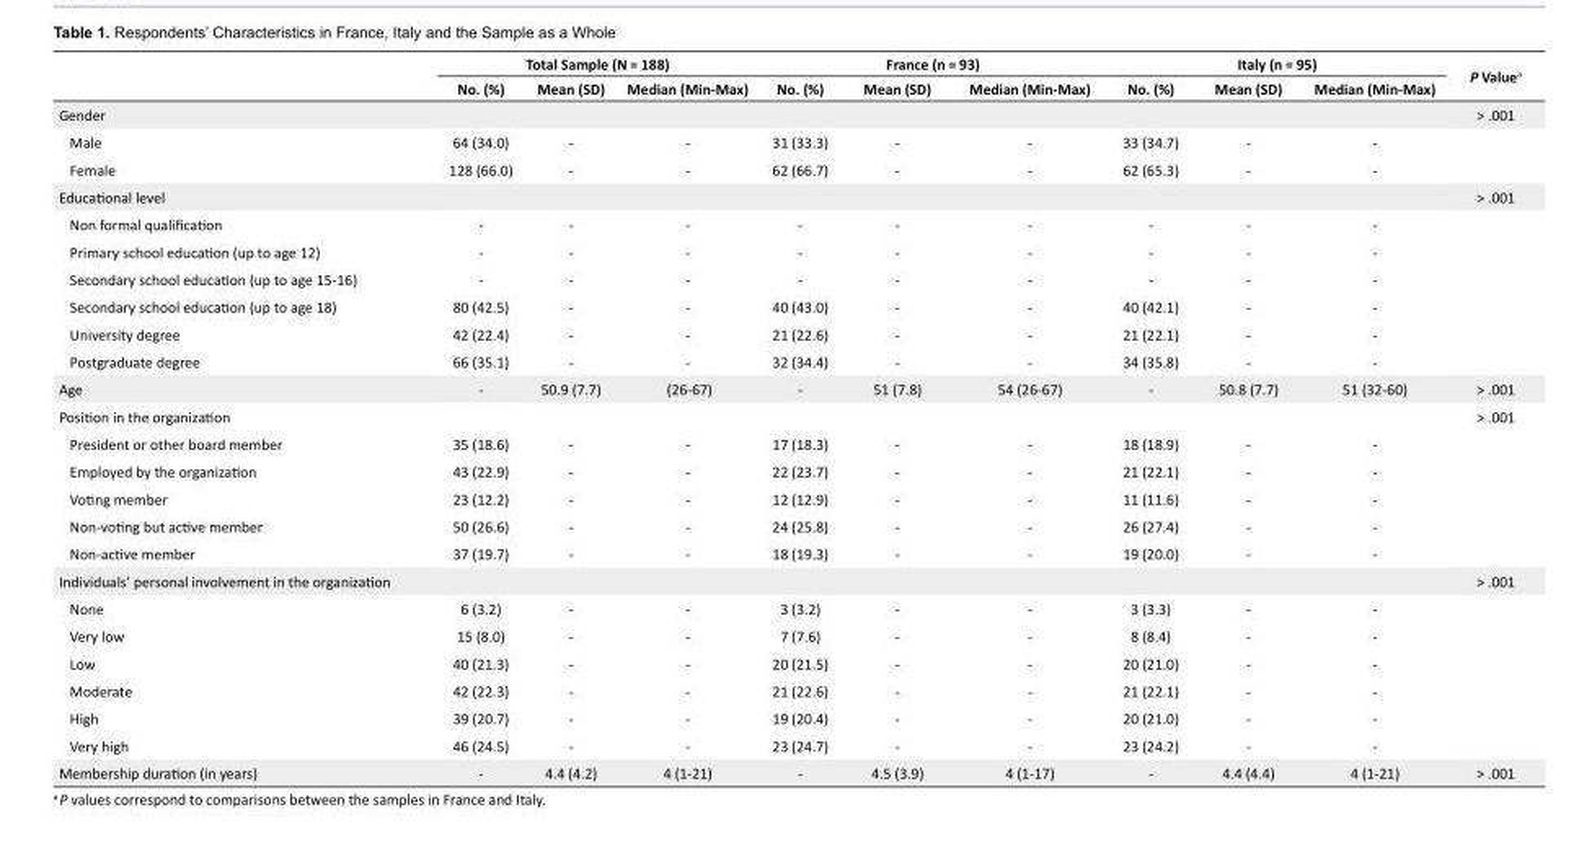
<table><thead><tr><td rowspan="2"></td><td colspan="4">Total Sample (N = 188)</td><td colspan="3">France (n = 93)</td><td colspan="2">Italy (n = 95)</td><td rowspan="2">P Value<sup>a</sup></td></tr><tr><td>No. (%)</td><td>Mean (SD)</td><td>Median (Min-Max)</td><td>No. (%)</td><td>Mean (SD)</td><td>Median (Min-Max)</td><td>No. (%)</td><td>Mean (SD)</td><td>Median (Min-Max)</td></tr></thead><tbody><tr><td>Gender</td><td></td><td></td><td></td><td></td><td></td><td></td><td></td><td></td><td></td><td>&gt; .001</td></tr><tr><td>Male</td><td>64 (34.0)</td><td>-</td><td>-</td><td>31 (33.3)</td><td>-</td><td>-</td><td>33 (34.7)</td><td>-</td><td>-</td><td></td></tr><tr><td>Female</td><td>128 (66.0)</td><td>-</td><td>-</td><td>62 (66.7)</td><td>-</td><td>-</td><td>62 (65.3)</td><td>-</td><td>-</td><td></td></tr><tr><td>Educational level</td><td></td><td></td><td></td><td></td><td></td><td></td><td></td><td></td><td></td><td>&gt; .001</td></tr><tr><td>Νon formal qualification</td><td>-</td><td>-</td><td>-</td><td>-</td><td>-</td><td>-</td><td>-</td><td>-</td><td>-</td><td></td></tr><tr><td>Primary school education (up to age 12)</td><td>-</td><td>-</td><td>-</td><td>-</td><td>-</td><td>-</td><td>-</td><td>-</td><td>-</td><td></td></tr><tr><td>Secondary school education (up to age 15-16)</td><td>-</td><td>-</td><td>-</td><td>-</td><td>-</td><td>-</td><td>-</td><td>-</td><td>-</td><td></td></tr><tr><td>Secondary school education (up to age 18)</td><td>80 (42.5)</td><td>-</td><td>-</td><td>40 (43.0)</td><td>-</td><td>-</td><td>40 (42.1)</td><td>-</td><td>-</td><td></td></tr><tr><td>University degree</td><td>42 (22.4)</td><td>-</td><td>-</td><td>21 (22.6)</td><td>-</td><td>-</td><td>21 (22.1)</td><td>-</td><td>-</td><td></td></tr><tr><td>Postgraduate degree</td><td>66 (35.1)</td><td>-</td><td>-</td><td>32 (34.4)</td><td>-</td><td>-</td><td>34 (35.8)</td><td>-</td><td>-</td><td></td></tr><tr><td>Age</td><td>-</td><td>50.9 (7.7)</td><td>(26-67)</td><td>-</td><td>51 (7.8)</td><td>54 (26-67)</td><td>-</td><td>50.8 (7.7)</td><td>51 (32-60)</td><td>&gt; .001</td></tr><tr><td>Position in the organization</td><td></td><td></td><td></td><td></td><td></td><td></td><td></td><td></td><td></td><td>&gt; .001</td></tr><tr><td>President or other board member</td><td>35 (18.6)</td><td>-</td><td>-</td><td>17 (18.3)</td><td>-</td><td>-</td><td>18 (18.9)</td><td>-</td><td>-</td><td></td></tr><tr><td>Employed by the organization</td><td>43 (22.9)</td><td>-</td><td>-</td><td>22 (23.7)</td><td>-</td><td>-</td><td>21 (22.1)</td><td>-</td><td>-</td><td></td></tr><tr><td>Voting member</td><td>23 (12.2)</td><td>-</td><td>-</td><td>12 (12.9)</td><td>-</td><td>-</td><td>11 (11.6)</td><td>-</td><td>-</td><td></td></tr><tr><td>Non-voting but active member</td><td>50 (26.6)</td><td>-</td><td>-</td><td>24 (25.8)</td><td>-</td><td>-</td><td>26 (27.4)</td><td>-</td><td>-</td><td></td></tr><tr><td>Non-active member</td><td>37 (19.7)</td><td>-</td><td>-</td><td>18 (19.3)</td><td>-</td><td>-</td><td>19 (20.0)</td><td>-</td><td>-</td><td></td></tr><tr><td>Individuals’ personal involvement in the organization</td><td></td><td></td><td></td><td></td><td></td><td></td><td></td><td></td><td></td><td>&gt; .001</td></tr><tr><td>Νone</td><td>6 (3.2)</td><td>-</td><td>-</td><td>3 (3.2)</td><td>-</td><td>-</td><td>3 (3.3)</td><td>-</td><td>-</td><td></td></tr><tr><td>Very low</td><td>15 (8.0)</td><td>-</td><td>-</td><td>7 (7.6)</td><td>-</td><td>-</td><td>8 (8.4)</td><td>-</td><td>-</td><td></td></tr><tr><td>Low</td><td>40 (21.3)</td><td>-</td><td>-</td><td>20 (21.5)</td><td>-</td><td>-</td><td>20 (21.0)</td><td>-</td><td>-</td><td></td></tr><tr><td>Moderate</td><td>42 (22.3)</td><td>-</td><td>-</td><td>21 (22.6)</td><td>-</td><td>-</td><td>21 (22.1)</td><td>-</td><td>-</td><td></td></tr><tr><td>High</td><td>39 (20.7)</td><td>-</td><td>-</td><td>19 (20.4)</td><td>-</td><td>-</td><td>20 (21.0)</td><td>-</td><td>-</td><td></td></tr><tr><td>Very high</td><td>46 (24.5)</td><td>-</td><td>-</td><td>23 (24.7)</td><td>-</td><td>-</td><td>23 (24.2)</td><td>-</td><td>-</td><td></td></tr><tr><td>Membership duration (in years)</td><td>-</td><td>4.4 (4.2)</td><td>4 (1-21)</td><td>-</td><td>4.5 (3.9)</td><td>4 (1-17)</td><td>-</td><td>4.4 (4.4)</td><td>4 (1-21)</td><td>&gt; .001</td></tr></tbody></table>